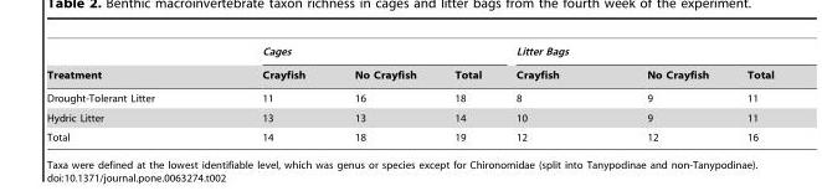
<table><thead><tr><td rowspan="2">Treatment</td><td colspan="3">Cages</td><td colspan="3">Litter Bags</td></tr><tr><td>Crayfish</td><td>No Crayfish</td><td>Total</td><td>Crayfish</td><td>No Crayfish</td><td>Total</td></tr></thead><tbody><tr><td>Drought-Tolerant Litter</td><td>11</td><td>16</td><td>18</td><td>8</td><td>9</td><td>11</td></tr><tr><td>Hydric Litter</td><td>13</td><td>13</td><td>14</td><td>10</td><td>9</td><td>11</td></tr><tr><td>Total</td><td>14</td><td>18</td><td>19</td><td>12</td><td>12</td><td>16</td></tr></tbody></table>